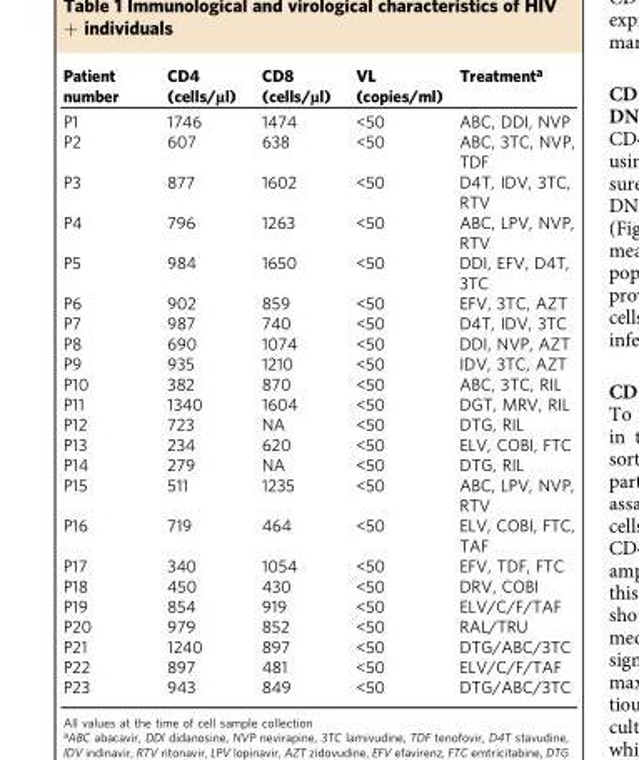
<table><thead><tr><td>Patient number</td><td>CD4 (cells/µl)</td><td>CD8 (cells/µl)</td><td>VL (copies/ml)</td><td>Treatment<sup>a</sup></td></tr></thead><tbody><tr><td>P1</td><td>1746</td><td>1474</td><td>&lt;50</td><td>ABC, DDI, NVP</td></tr><tr><td>P2</td><td>607</td><td>638</td><td>&lt;50</td><td>ABC, 3TC, NVP, TDF</td></tr><tr><td>P3</td><td>877</td><td>1602</td><td>&lt;50</td><td>D4T, IDV, 3TC, RTV</td></tr><tr><td>P4</td><td>796</td><td>1263</td><td>&lt;50</td><td>ABC, LPV, NVP, RTV</td></tr><tr><td>P5</td><td>984</td><td>1650</td><td>&lt;50</td><td>DDI, EFV, D4T, 3TC</td></tr><tr><td>P6</td><td>902</td><td>859</td><td>&lt;50</td><td>EFV, 3TC, AZT</td></tr><tr><td>P7</td><td>987</td><td>740</td><td>&lt;50</td><td>D4T, IDV, 3TC</td></tr><tr><td>P8</td><td>690</td><td>1074</td><td>&lt;50</td><td>DDI, NVP, AZT</td></tr><tr><td>P9</td><td>935</td><td>1210</td><td>&lt;50</td><td>IDV, 3TC, AZT</td></tr><tr><td>P10</td><td>382</td><td>870</td><td>&lt;50</td><td>ABC, 3TC, RIL</td></tr><tr><td>P11</td><td>1340</td><td>1604</td><td>&lt;50</td><td>DGT, MRV, RIL</td></tr><tr><td>P12</td><td>723</td><td>NA</td><td>&lt;50</td><td>DTG, RIL</td></tr><tr><td>P13</td><td>234</td><td>620</td><td>&lt;50</td><td>ELV, COBI, FTC</td></tr><tr><td>P14</td><td>279</td><td>NA</td><td>&lt;50</td><td>DTG, RIL</td></tr><tr><td>P15</td><td>511</td><td>1235</td><td>&lt;50</td><td>ABC, LPV, NVP, RTV</td></tr><tr><td>P16</td><td>719</td><td>464</td><td>&lt;50</td><td>ELV, COBI, FTC, TAF</td></tr><tr><td>P17</td><td>340</td><td>1054</td><td>&lt;50</td><td>EFV, TDF, FTC</td></tr><tr><td>P18</td><td>450</td><td>430</td><td>&lt;50</td><td>DRV, COBI</td></tr><tr><td>P19</td><td>854</td><td>919</td><td>&lt;50</td><td>ELV/C/F/TAF</td></tr><tr><td>P20</td><td>979</td><td>852</td><td>&lt;50</td><td>RAL/TRU</td></tr><tr><td>P21</td><td>1240</td><td>897</td><td>&lt;50</td><td>DTG/ABC/3TC</td></tr><tr><td>P22</td><td>897</td><td>481</td><td>&lt;50</td><td>ELV/C/F/TAF</td></tr><tr><td>P23</td><td>943</td><td>849</td><td>&lt;50</td><td>DTG/ABC/3TC</td></tr></tbody></table>